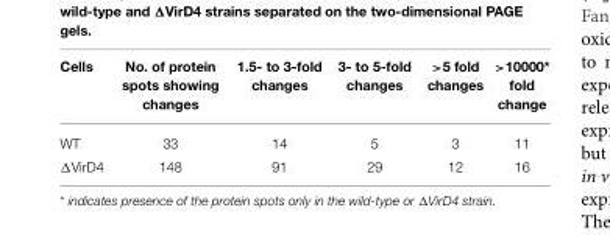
<table><thead><tr><td>Cells</td><td>No. of protein spots showing changes</td><td>1.5- to 3-fold changes</td><td>3- to 5-fold changes</td><td>&gt;5 fold changes</td><td>&gt;10000* fold change</td></tr></thead><tbody><tr><td>WT</td><td>33</td><td>14</td><td>5</td><td>3</td><td>11</td></tr><tr><td>ΔVirD4</td><td>148</td><td>91</td><td>29</td><td>12</td><td>16</td></tr></tbody></table>